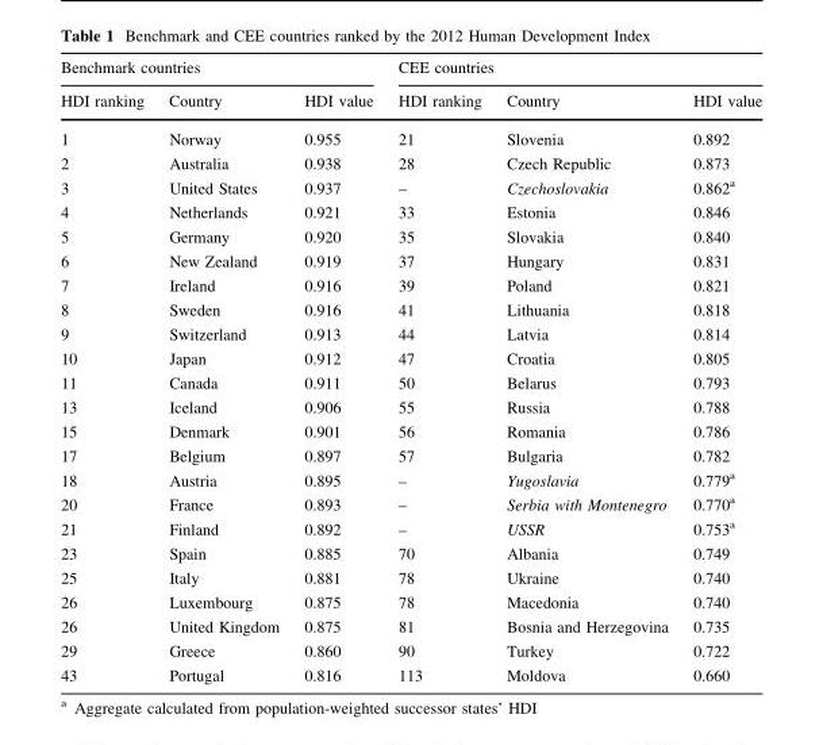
<table><thead><tr><td colspan="3">Benchmark countries</td><td colspan="3">CEE countries</td></tr><tr><td>HDI ranking</td><td>Country</td><td>HDI value</td><td>HDI ranking</td><td>Country</td><td>HDI value</td></tr></thead><tbody><tr><td>1</td><td>Norway</td><td>0.955</td><td>21</td><td>Slovenia</td><td>0.892</td></tr><tr><td>2</td><td>Australia</td><td>0.938</td><td>28</td><td>Czech Republic</td><td>0.873</td></tr><tr><td>3</td><td>United States</td><td>0.937</td><td>–</td><td>Czechoslovakia</td><td>0.862<sup>a</sup></td></tr><tr><td>4</td><td>Netherlands</td><td>0.921</td><td>33</td><td>Estonia</td><td>0.846</td></tr><tr><td>5</td><td>Germany</td><td>0.920</td><td>35</td><td>Slovakia</td><td>0.840</td></tr><tr><td>6</td><td>New Zealand</td><td>0.919</td><td>37</td><td>Hungary</td><td>0.831</td></tr><tr><td>7</td><td>Ireland</td><td>0.916</td><td>39</td><td>Poland</td><td>0.821</td></tr><tr><td>8</td><td>Sweden</td><td>0.916</td><td>41</td><td>Lithuania</td><td>0.818</td></tr><tr><td>9</td><td>Switzerland</td><td>0.913</td><td>44</td><td>Latvia</td><td>0.814</td></tr><tr><td>10</td><td>Japan</td><td>0.912</td><td>47</td><td>Croatia</td><td>0.805</td></tr><tr><td>11</td><td>Canada</td><td>0.911</td><td>50</td><td>Belarus</td><td>0.793</td></tr><tr><td>13</td><td>Iceland</td><td>0.906</td><td>55</td><td>Russia</td><td>0.788</td></tr><tr><td>15</td><td>Denmark</td><td>0.901</td><td>56</td><td>Romania</td><td>0.786</td></tr><tr><td>17</td><td>Belgium</td><td>0.897</td><td>57</td><td>Bulgaria</td><td>0.782</td></tr><tr><td>18</td><td>Austria</td><td>0.895</td><td>–</td><td>Yugoslavia</td><td>0.779<sup>a</sup></td></tr><tr><td>20</td><td>France</td><td>0.893</td><td>–</td><td>Serbia with Montenegro</td><td>0.770<sup>a</sup></td></tr><tr><td>21</td><td>Finland</td><td>0.892</td><td>–</td><td>USSR</td><td>0.753<sup>a</sup></td></tr><tr><td>23</td><td>Spain</td><td>0.885</td><td>70</td><td>Albania</td><td>0.749</td></tr><tr><td>25</td><td>Italy</td><td>0.881</td><td>78</td><td>Ukraine</td><td>0.740</td></tr><tr><td>26</td><td>Luxembourg</td><td>0.875</td><td>78</td><td>Macedonia</td><td>0.740</td></tr><tr><td>26</td><td>United Kingdom</td><td>0.875</td><td>81</td><td>Bosnia and Herzegovina</td><td>0.735</td></tr><tr><td>29</td><td>Greece</td><td>0.860</td><td>90</td><td>Turkey</td><td>0.722</td></tr><tr><td>43</td><td>Portugal</td><td>0.816</td><td>113</td><td>Moldova</td><td>0.660</td></tr></tbody></table>